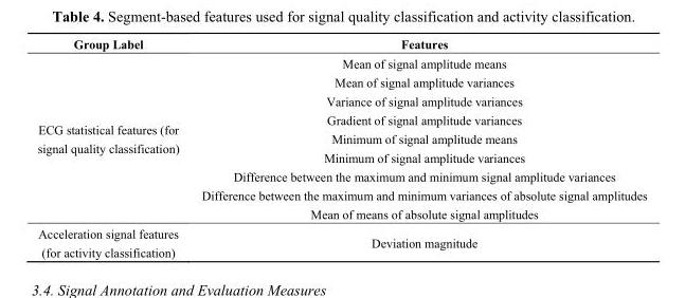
<table><thead><tr><td>Group Label</td><td>Features</td></tr></thead><tbody><tr><td rowspan="9">ECG statistical features (for signal quality classification)</td><td>Mean of signal amplitude means</td></tr><tr><td>Mean of signal amplitude variances</td></tr><tr><td>Variance of signal amplitude variances</td></tr><tr><td>Gradient of signal amplitude variances</td></tr><tr><td>Minimum of signal amplitude means</td></tr><tr><td>Minimum of signal amplitude variances</td></tr><tr><td>Difference between the maximum and minimum signal amplitude variances</td></tr><tr><td>Difference between the maximum and minimum variances of absolute signal amplitudes</td></tr><tr><td>Mean of means of absolute signal amplitudes</td></tr><tr><td>Acceleration signal features (for activity classification)</td><td>Deviation magnitude</td></tr></tbody></table>